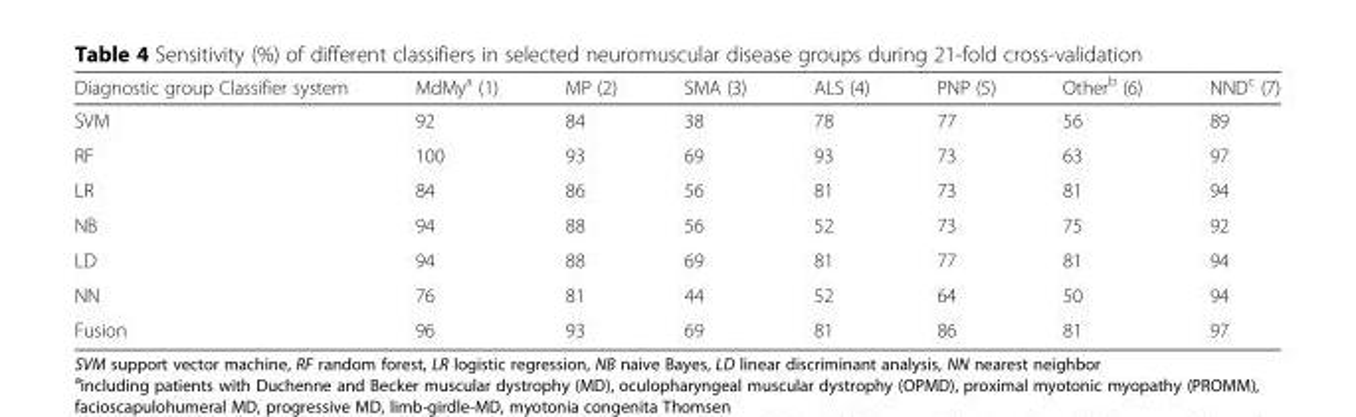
<table><thead><tr><td>Diagnostic group Classifier system</td><td>MdMy<sup>a</sup> (1)</td><td>MP (2)</td><td>SMA (3)</td><td>ALS (4)</td><td>PNP (5)</td><td>Other<sup>b</sup> (6)</td><td>NND<sup>c</sup> (7)</td></tr></thead><tbody><tr><td>SVM</td><td>92</td><td>84</td><td>38</td><td>78</td><td>77</td><td>56</td><td>89</td></tr><tr><td>RF</td><td>100</td><td>93</td><td>69</td><td>93</td><td>73</td><td>63</td><td>97</td></tr><tr><td>LR</td><td>84</td><td>86</td><td>56</td><td>81</td><td>73</td><td>81</td><td>94</td></tr><tr><td>NB</td><td>94</td><td>88</td><td>56</td><td>52</td><td>73</td><td>75</td><td>92</td></tr><tr><td>LD</td><td>94</td><td>88</td><td>69</td><td>81</td><td>77</td><td>81</td><td>94</td></tr><tr><td>NN</td><td>76</td><td>81</td><td>44</td><td>52</td><td>64</td><td>50</td><td>94</td></tr><tr><td>Fusion</td><td>96</td><td>93</td><td>69</td><td>81</td><td>86</td><td>81</td><td>97</td></tr></tbody></table>